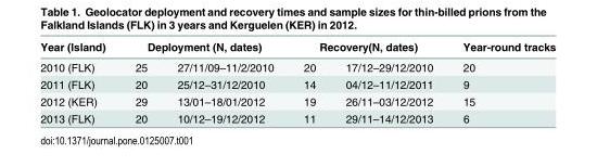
<table><thead><tr><td rowspan="2">Year (Island) 2010 (FLK)</td><td colspan="2">Deployment (N, dates)</td><td colspan="2">Recovery(N, dates)</td><td rowspan="2">Year-round tracks 20</td></tr><tr><td>25</td><td>27/11/09–11/2/2010</td><td>20</td><td>17/12–29/12/2010</td></tr></thead><tbody><tr><td>2011 (FLK)</td><td>20</td><td>25/12–31/12/2010</td><td>14</td><td>04/12–11/12/2011</td><td>9</td></tr><tr><td>2012 (KER)</td><td>29</td><td>13/01–18/01/2012</td><td>19</td><td>26/11–03/12/2012</td><td>15</td></tr><tr><td>2013 (FLK)</td><td>20</td><td>10/12–19/12/2012</td><td>11</td><td>29/11–14/12/2013</td><td>6</td></tr></tbody></table>